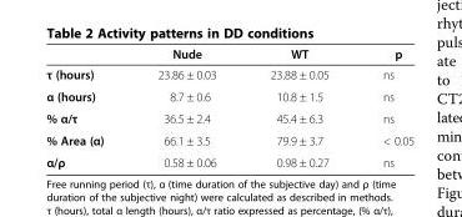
<table><thead><tr><td></td><td>Nude</td><td>WT</td><td>p</td></tr></thead><tbody><tr><td>τ (hours)</td><td>23.86 ± 0.03</td><td>23.88 ± 0.05</td><td>ns</td></tr><tr><td>α (hours)</td><td>8.7 ± 0.6</td><td>10.8 ± 1.5</td><td>ns</td></tr><tr><td>% α/τ</td><td>36.5 ± 2.4</td><td>45.4 ± 6.3</td><td>ns</td></tr><tr><td>% Area (α)</td><td>66.1 ± 3.5</td><td>79.9 ± 3.7</td><td>&lt; 0.05</td></tr><tr><td>α/ρ</td><td>0.58 ± 0.06</td><td>0.98 ± 0.27</td><td>ns</td></tr></tbody></table>